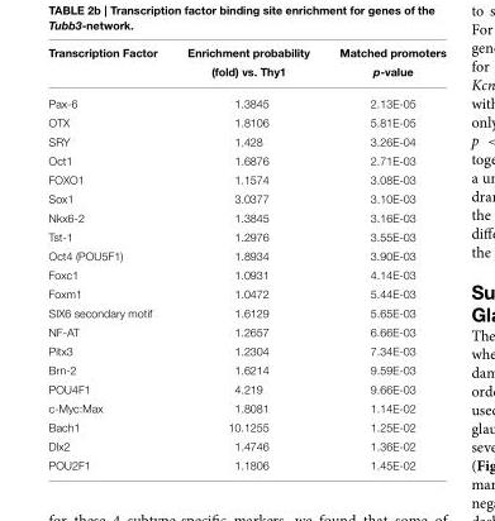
<table><thead><tr><td>Transcription Factor</td><td>Enrichment probability (fold) vs. Thy1</td><td>Matched promoters p-value</td></tr></thead><tbody><tr><td>Pax-6</td><td>1.3845</td><td>2.13E-05</td></tr><tr><td>OTX</td><td>1.8106</td><td>5.81E-05</td></tr><tr><td>SRY</td><td>1.428</td><td>3.26E-04</td></tr><tr><td>Oct1</td><td>1.6876</td><td>2.71E-03</td></tr><tr><td>FOXO1</td><td>1.1574</td><td>3.08E-03</td></tr><tr><td>Sox1</td><td>3.0377</td><td>3.10E-03</td></tr><tr><td>Nkx6-2</td><td>1.3845</td><td>3.16E-03</td></tr><tr><td>Tst-1</td><td>1.2976</td><td>3.55E-03</td></tr><tr><td>Oct4 (POU5F1)</td><td>1.8934</td><td>3.90E-03</td></tr><tr><td>Foxc1</td><td>1.0931</td><td>4.14E-03</td></tr><tr><td>Foxm1</td><td>1.0472</td><td>5.44E-03</td></tr><tr><td>SIX6 secondary motif</td><td>1.6129</td><td>5.65E-03</td></tr><tr><td>NF-AT</td><td>1.2657</td><td>6.66E-03</td></tr><tr><td>Pitx3</td><td>1.2304</td><td>7.34E-03</td></tr><tr><td>Brn-2</td><td>1.6214</td><td>9.59E-03</td></tr><tr><td>POU4F1</td><td>4.219</td><td>9.66E-03</td></tr><tr><td>c-Myc:Max</td><td>1.8081</td><td>1.14E-02</td></tr><tr><td>Bach1</td><td>10.1255</td><td>1.25E-02</td></tr><tr><td>Dlx2</td><td>1.4746</td><td>1.36E-02</td></tr><tr><td>POU2F1</td><td>1.1806</td><td>1.45E-02</td></tr></tbody></table>